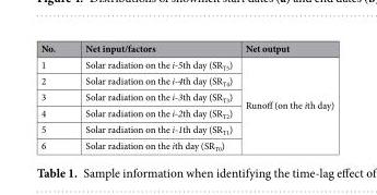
<table><thead><tr><td>No.</td><td>Net input/factors</td><td>Net output</td></tr></thead><tbody><tr><td>1</td><td>Solar radiation on the i-5th day (SR<sub>T5</sub>)</td><td rowspan="6">Runoff (on the ith day)</td></tr><tr><td>2</td><td>Solar radiation on the i-4th day (SR<sub>T4</sub>)</td></tr><tr><td>3</td><td>Solar radiation on the i-3th day (SR<sub>T3</sub>)</td></tr><tr><td>4</td><td>Solar radiation on the i-2th day (SR<sub>T2</sub>)</td></tr><tr><td>5</td><td>Solar radiation on the i-1th day (SR<sub>T1</sub>)</td></tr><tr><td>6</td><td>Solar radiation on the ith day (SR<sub>T0</sub>)</td></tr></tbody></table>